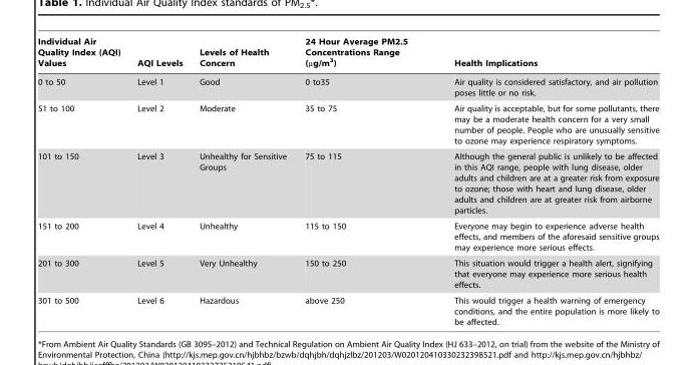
<table><thead><tr><td>Individual Air Quality Index (AQI) Values</td><td>AQI Levels</td><td>Levels of Health Concern</td><td>24 Hour Average PM2.5 Concentrations Range (µg/m<sup>3</sup>)</td><td>Health Implications</td></tr></thead><tbody><tr><td>0 to 50</td><td>Level 1</td><td>Good</td><td>0 to35</td><td>Air quality is considered satisfactory, and air pollution poses little or no risk.</td></tr><tr><td>51 to 100</td><td>Level 2</td><td>Moderate</td><td>35 to 75</td><td>Air quality is acceptable, but for some pollutants, there may be a moderate health concern for a very small number of people. People who are unusually sensitive to ozone may experience respiratory symptoms.</td></tr><tr><td>101 to 150</td><td>Level 3</td><td>Unhealthy for Sensitive Groups</td><td>75 to 115</td><td>Although the general public is unlikely to be affected in this AQI range, people with lung disease, older adults and children are at a greater risk from exposure to ozone; those with heart and lung disease, older adults and children are at greater risk from airborne particles.</td></tr><tr><td>151 to 200</td><td>Level 4</td><td>Unhealthy</td><td>115 to 150</td><td>Everyone may begin to experience adverse health effects, and members of the aforesaid sensitive groups may experience more serious effects.</td></tr><tr><td>201 to 300</td><td>Level 5</td><td>Very Unhealthy</td><td>150 to 250</td><td>This situation would trigger a health alert, signifying that everyone may experience more serious health effects.</td></tr><tr><td>301 to 500</td><td>Level 6</td><td>Hazardous</td><td>above 250</td><td>This would trigger a health warning of emergency conditions, and the entire population is more likely to be affected.</td></tr></tbody></table>